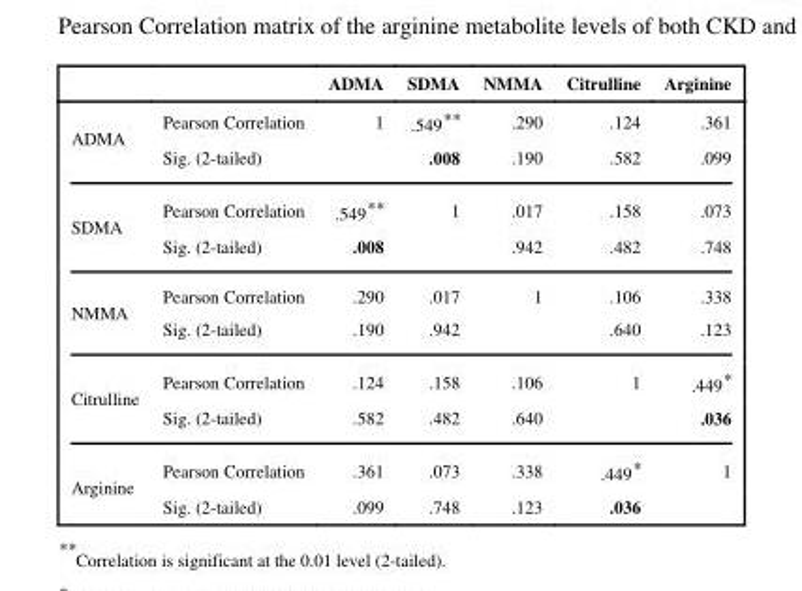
<table><thead><tr><td></td><td></td><td>ADMA</td><td>SDMA</td><td>NMMA</td><td>Citrulline</td><td>Arginine</td></tr></thead><tbody><tr><td rowspan="2">ADMA</td><td>Pearson Correlation</td><td>1</td><td>.549**</td><td>.290</td><td>.124</td><td>.361</td></tr><tr><td>Sig. (2-tailed)</td><td></td><td>.008</td><td>.190</td><td>.582</td><td>.099</td></tr><tr><td rowspan="2">SDMA</td><td>Pearson Correlation</td><td>.549**</td><td>1</td><td>.017</td><td>.158</td><td>.073</td></tr><tr><td>Sig. (2-tailed)</td><td>.008</td><td></td><td>.942</td><td>.482</td><td>.748</td></tr><tr><td rowspan="2">NMMA</td><td>Pearson Correlation</td><td>.290</td><td>.017</td><td>1</td><td>.106</td><td>.338</td></tr><tr><td>Sig. (2-tailed)</td><td>.190</td><td>.942</td><td></td><td>.640</td><td>.123</td></tr><tr><td rowspan="2">Citrulline</td><td>Pearson Correlation</td><td>.124</td><td>.158</td><td>.106</td><td>1</td><td>.449*</td></tr><tr><td>Sig. (2-tailed)</td><td>.582</td><td>.482</td><td>.640</td><td></td><td>.036</td></tr><tr><td rowspan="2">Arginine</td><td>Pearson Correlation</td><td>.361</td><td>.073</td><td>.338</td><td>.449*</td><td>1</td></tr><tr><td>Sig. (2-tailed)</td><td>.099</td><td>.748</td><td>.123</td><td>.036</td><td></td></tr></tbody></table>